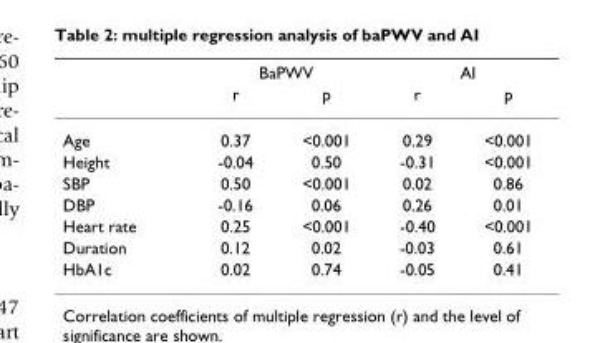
<table><thead><tr><td rowspan="2"></td><td colspan="2">BaPWV</td><td colspan="2">AI</td></tr><tr><td>r</td><td>p</td><td>r</td><td>p</td></tr></thead><tbody><tr><td>Age</td><td>0.37</td><td>&lt;0.001</td><td>0.29</td><td>&lt;0.001</td></tr><tr><td>Height</td><td>-0.04</td><td>0.50</td><td>-0.31</td><td>&lt;0.001</td></tr><tr><td>SBP</td><td>0.50</td><td>&lt;0.001</td><td>0.02</td><td>0.86</td></tr><tr><td>DBP</td><td>-0.16</td><td>0.06</td><td>0.26</td><td>0.01</td></tr><tr><td>Heart rate</td><td>0.25</td><td>&lt;0.001</td><td>-0.40</td><td>&lt;0.001</td></tr><tr><td>Duration</td><td>0.12</td><td>0.02</td><td>-0.03</td><td>0.61</td></tr><tr><td>HbA1c</td><td>0.02</td><td>0.74</td><td>-0.05</td><td>0.41</td></tr></tbody></table>